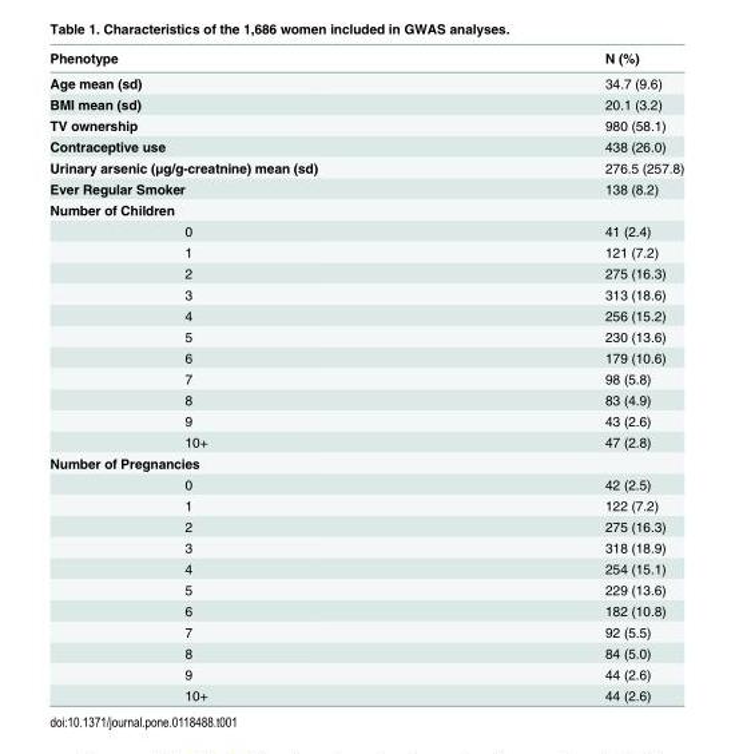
<table><thead><tr><td>Phenotype</td><td>N (%)</td></tr></thead><tbody><tr><td>Age mean (sd)</td><td>34.7 (9.6)</td></tr><tr><td>BMI mean (sd)</td><td>20.1 (3.2)</td></tr><tr><td>TV ownership</td><td>980 (58.1)</td></tr><tr><td>Contraceptive use</td><td>438 (26.0)</td></tr><tr><td>Urinary arsenic (μg/g-creatnine) mean (sd)</td><td>276.5 (257.8)</td></tr><tr><td>Ever Regular Smoker</td><td>138 (8.2)</td></tr><tr><td colspan="2">Number of Children</td></tr><tr><td>0</td><td>41 (2.4)</td></tr><tr><td>1</td><td>121 (7.2)</td></tr><tr><td>2</td><td>275 (16.3)</td></tr><tr><td>3</td><td>313 (18.6)</td></tr><tr><td>4</td><td>256 (15.2)</td></tr><tr><td>5</td><td>230 (13.6)</td></tr><tr><td>6</td><td>179 (10.6)</td></tr><tr><td>7</td><td>98 (5.8)</td></tr><tr><td>8</td><td>83 (4.9)</td></tr><tr><td>9</td><td>43 (2.6)</td></tr><tr><td>10+</td><td>47 (2.8)</td></tr><tr><td colspan="2">Number of Pregnancies</td></tr><tr><td>0</td><td>42 (2.5)</td></tr><tr><td>1</td><td>122 (7.2)</td></tr><tr><td>2</td><td>275 (16.3)</td></tr><tr><td>3</td><td>318 (18.9)</td></tr><tr><td>4</td><td>254 (15.1)</td></tr><tr><td>5</td><td>229 (13.6)</td></tr><tr><td>6</td><td>182 (10.8)</td></tr><tr><td>7</td><td>92 (5.5)</td></tr><tr><td>8</td><td>84 (5.0)</td></tr><tr><td>9</td><td>44 (2.6)</td></tr><tr><td>10+</td><td>44 (2.6)</td></tr></tbody></table>